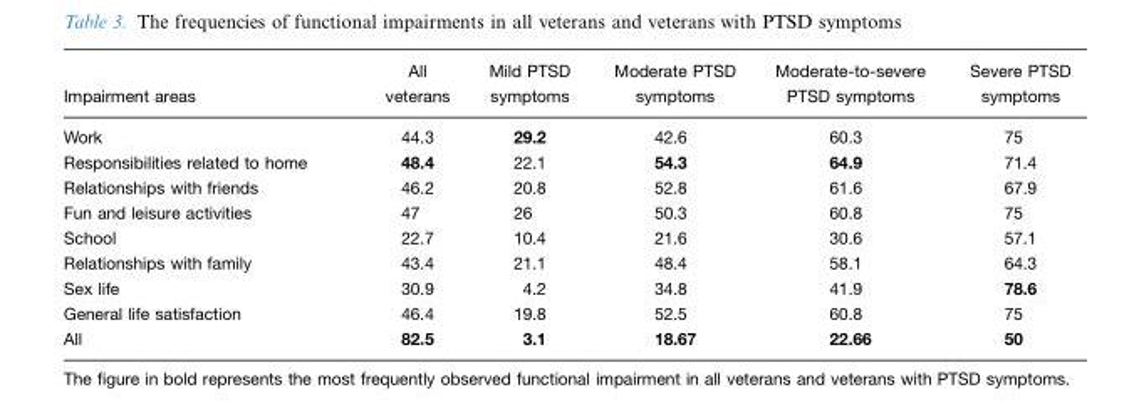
<table><thead><tr><td>Impairment areas</td><td>All veterans</td><td>Mild PTSD symptoms</td><td>Moderate PTSD symptoms</td><td>Moderate-to-severe PTSD symptoms</td><td>Severe PTSD symptoms</td></tr></thead><tbody><tr><td>Work</td><td>44.3</td><td>29.2</td><td>42.6</td><td>60.3</td><td>75</td></tr><tr><td>Responsibilities related to home</td><td>48.4</td><td>22.1</td><td>54.3</td><td>64.9</td><td>71.4</td></tr><tr><td>Relationships with friends</td><td>46.2</td><td>20.8</td><td>52.8</td><td>61.6</td><td>67.9</td></tr><tr><td>Fun and leisure activities</td><td>47</td><td>26</td><td>50.3</td><td>60.8</td><td>75</td></tr><tr><td>School</td><td>22.7</td><td>10.4</td><td>21.6</td><td>30.6</td><td>57.1</td></tr><tr><td>Relationships with family</td><td>43.4</td><td>21.1</td><td>48.4</td><td>58.1</td><td>64.3</td></tr><tr><td>Sex life</td><td>30.9</td><td>4.2</td><td>34.8</td><td>41.9</td><td>78.6</td></tr><tr><td>General life satisfaction</td><td>46.4</td><td>19.8</td><td>52.5</td><td>60.8</td><td>75</td></tr><tr><td>All</td><td>82.5</td><td>3.1</td><td>18.67</td><td>22.66</td><td>50</td></tr></tbody></table>